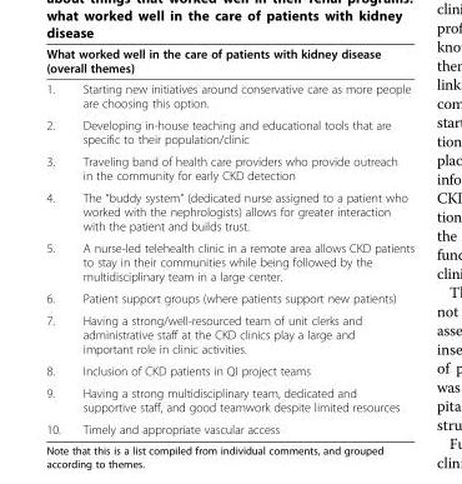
<table><thead><tr><td colspan="2">What worked well in the care of patients with kidney disease (overall themes)</td></tr><tr><td>1.</td><td>Starting new initiatives around conservative care as more people are choosing this option.</td></tr></thead><tbody><tr><td>2.</td><td>Developing in-house teaching and educational tools that are specific to their population/clinic</td></tr><tr><td>3.</td><td>Traveling band of health care providers who provide outreach in the community for early CKD detection</td></tr><tr><td>4.</td><td>The “buddy system” (dedicated nurse assigned to a patient who worked with the nephrologists) allows for greater interaction with the patient and builds trust.</td></tr><tr><td>5.</td><td>A nurse-led telehealth clinic in a remote area allows CKD patients to stay in their communities while being followed by the multidisciplinary team in a large center.</td></tr><tr><td>6.</td><td>Patient support groups (where patients support new patients)</td></tr><tr><td>7.</td><td>Having a strong/well-resourced team of unit clerks and administrative staff at the CKD clinics play a large and important role in clinic activities.</td></tr><tr><td>8.</td><td>Inclusion of CKD patients in QI project teams</td></tr><tr><td>9.</td><td>Having a strong multidisciplinary team, dedicated and supportive staff, and good teamwork despite limited resources</td></tr><tr><td>10.</td><td>Timely and appropriate vascular access</td></tr></tbody></table>